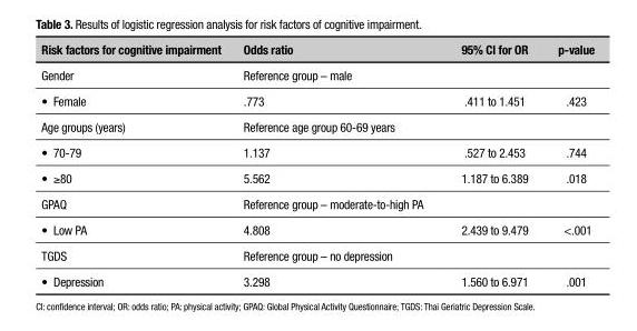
<table><thead><tr><td>Risk factors for cognitive impairment</td><td>Odds ratio</td><td>95% CI for OR</td><td>p-value</td></tr></thead><tbody><tr><td>Gender</td><td>Reference group – male</td><td></td><td></td></tr><tr><td>• Female</td><td>.773</td><td>.411 to 1.451</td><td>.423</td></tr><tr><td>Age groups (years)</td><td>Reference age group 60-69 years</td><td></td><td></td></tr><tr><td>• 70-79</td><td>1.137</td><td>.527 to 2.453</td><td>.744</td></tr><tr><td>• ≥80</td><td>5.562</td><td>1.187 to 6.389</td><td>.018</td></tr><tr><td>GPAQ</td><td>Reference group – moderate-to-high PA</td><td></td><td></td></tr><tr><td>• Low PA</td><td>4.808</td><td>2.439 to 9.479</td><td>&lt;.001</td></tr><tr><td>TGDS</td><td>Reference group – no depression</td><td></td><td></td></tr><tr><td>• Depression</td><td>3.298</td><td>1.560 to 6.971</td><td>.001</td></tr></tbody></table>